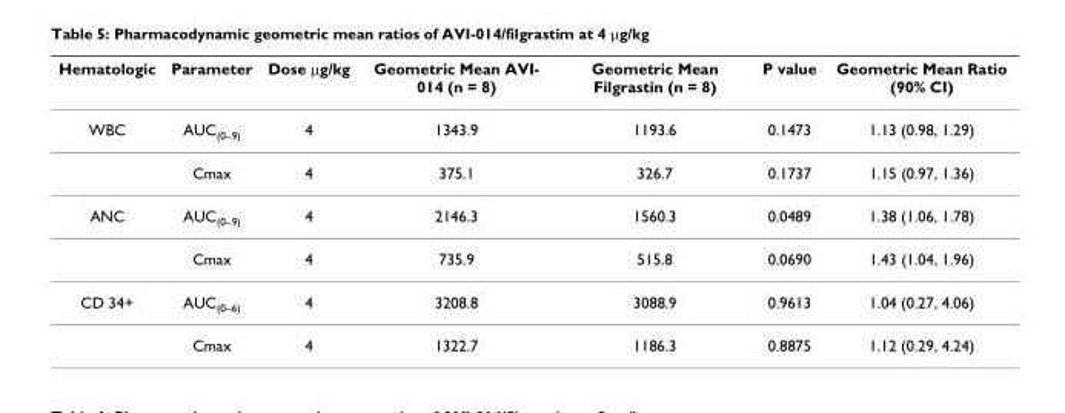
<table><thead><tr><td>Hematologic</td><td>Parameter</td><td>Dose μg/kg</td><td>Geometric Mean AVI- 014 (n = 8)</td><td>Geometric Mean Filgrastin (n = 8)</td><td>P value</td><td>Geometric Mean Ratio (90% CI)</td></tr></thead><tbody><tr><td rowspan="2">WBC</td><td>AUC<sub>(0–9)</sub></td><td>4</td><td>1343.9</td><td>1193.6</td><td>0.1473</td><td>1.13 (0.98, 1.29)</td></tr><tr><td>Cmax</td><td>4</td><td>375.1</td><td>326.7</td><td>0.1737</td><td>1.15 (0.97, 1.36)</td></tr><tr><td rowspan="2">ANC</td><td>AUC<sub>(0–9)</sub></td><td>4</td><td>2146.3</td><td>1560.3</td><td>0.0489</td><td>1.38 (1.06, 1.78)</td></tr><tr><td>Cmax</td><td>4</td><td>735.9</td><td>515.8</td><td>0.0690</td><td>1.43 (1.04, 1.96)</td></tr><tr><td rowspan="2">CD 34+</td><td>AUC<sub>(0–6)</sub></td><td>4</td><td>3208.8</td><td>3088.9</td><td>0.9613</td><td>1.04 (0.27, 4.06)</td></tr><tr><td>Cmax</td><td>4</td><td>1322.7</td><td>1186.3</td><td>0.8875</td><td>1.12 (0.29, 4.24)</td></tr></tbody></table>